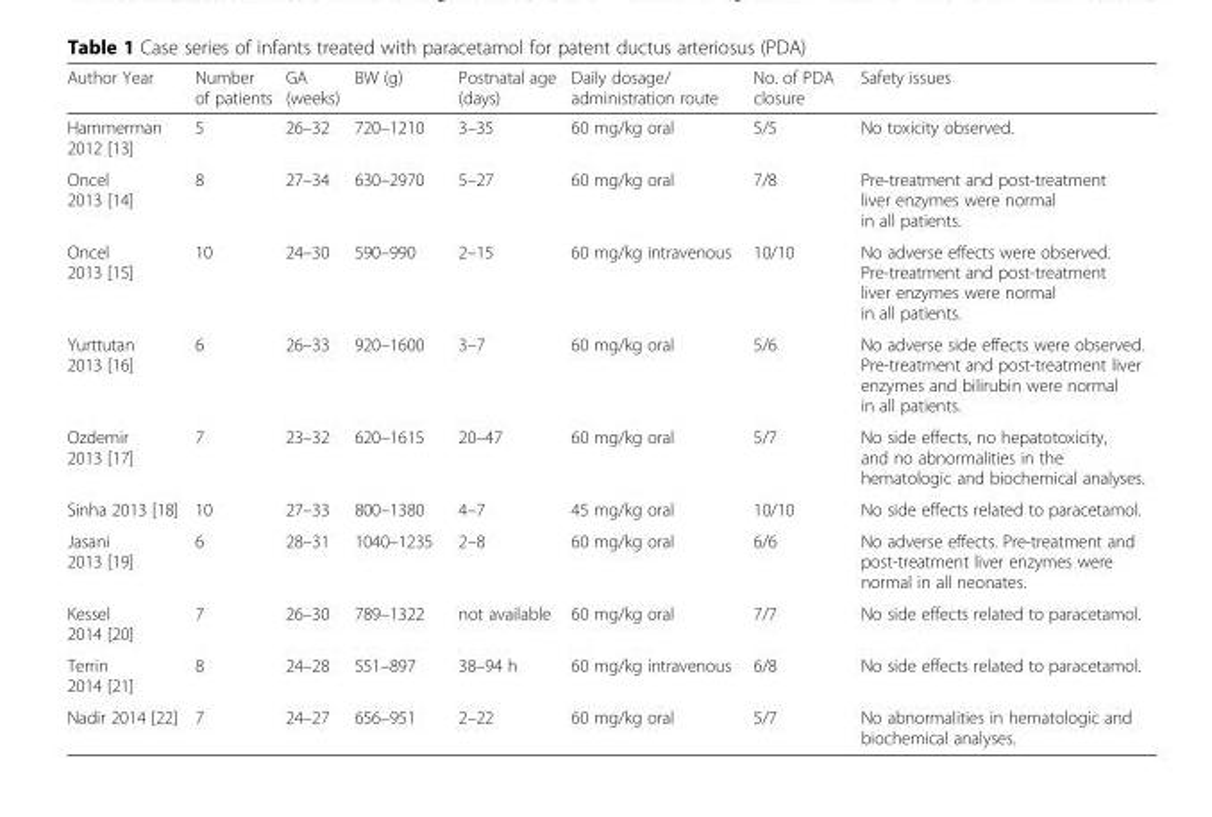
<table><thead><tr><td>Author Year</td><td>Number of patients</td><td>GA (weeks)</td><td>BW (g)</td><td>Postnatal age (days)</td><td>Daily dosage/ administration route</td><td>No. of PDA closure</td><td>Safety issues</td></tr></thead><tbody><tr><td>Hammerman 2012 [13]</td><td>5</td><td>26–32</td><td>720–1210</td><td>3–35</td><td>60 mg/kg oral</td><td>5/5</td><td>No toxicity observed.</td></tr><tr><td>Oncel 2013 [14]</td><td>8</td><td>27–34</td><td>630–2970</td><td>5–27</td><td>60 mg/kg oral</td><td>7/8</td><td>Pre-treatment and post-treatment liver enzymes were normal in all patients.</td></tr><tr><td>Oncel 2013 [15]</td><td>10</td><td>24–30</td><td>590–990</td><td>2–15</td><td>60 mg/kg intravenous</td><td>10/10</td><td>No adverse effects were observed. Pre-treatment and post-treatment liver enzymes were normal in all patients.</td></tr><tr><td>Yurttutan 2013 [16]</td><td>6</td><td>26–33</td><td>920–1600</td><td>3–7</td><td>60 mg/kg oral</td><td>5/6</td><td>No adverse side effects were observed. Pre-treatment and post-treatment liver enzymes and bilirubin were normal in all patients.</td></tr><tr><td>Ozdemir 2013 [17]</td><td>7</td><td>23–32</td><td>620–1615</td><td>20–47</td><td>60 mg/kg oral</td><td>5/7</td><td>No side effects, no hepatotoxicity, and no abnormalities in the hematologic and biochemical analyses.</td></tr><tr><td>Sinha 2013 [18]</td><td>10</td><td>27–33</td><td>800–1380</td><td>4–7</td><td>45 mg/kg oral</td><td>10/10</td><td>No side effects related to paracetamol.</td></tr><tr><td>Jasani 2013 [19]</td><td>6</td><td>28–31</td><td>1040–1235</td><td>2–8</td><td>60 mg/kg oral</td><td>6/6</td><td>No adverse effects. Pre-treatment and post-treatment liver enzymes were normal in all neonates.</td></tr><tr><td>Kessel 2014 [20]</td><td>7</td><td>26–30</td><td>789–1322</td><td>not available</td><td>60 mg/kg oral</td><td>7/7</td><td>No side effects related to paracetamol.</td></tr><tr><td>Terrin 2014 [21]</td><td>8</td><td>24–28</td><td>551–897</td><td>38–94 h</td><td>60 mg/kg intravenous</td><td>6/8</td><td>No side effects related to paracetamol.</td></tr><tr><td>Nadir 2014 [22]</td><td>7</td><td>24–27</td><td>656–951</td><td>2–22</td><td>60 mg/kg oral</td><td>5/7</td><td>No abnormalities in hematologic and biochemical analyses.</td></tr></tbody></table>